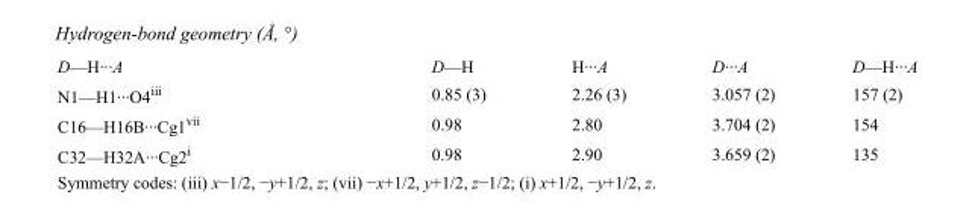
<table><tbody><tr><td>D—H···A</td><td>D—H</td><td>H···A</td><td>D···A</td><td>D—H···A</td></tr><tr><td>N1—H1···O4<sup>iii</sup></td><td>0.85 (3)</td><td>2.26 (3)</td><td>3.057 (2)</td><td>157 (2)</td></tr><tr><td>C16—H16B···Cg1<sup>vii</sup></td><td>0.98</td><td>2.80</td><td>3.704 (2)</td><td>154</td></tr><tr><td>C32—H32A···Cg2<sup>i</sup></td><td>0.98</td><td>2.90</td><td>3.659 (2)</td><td>135</td></tr></tbody></table>